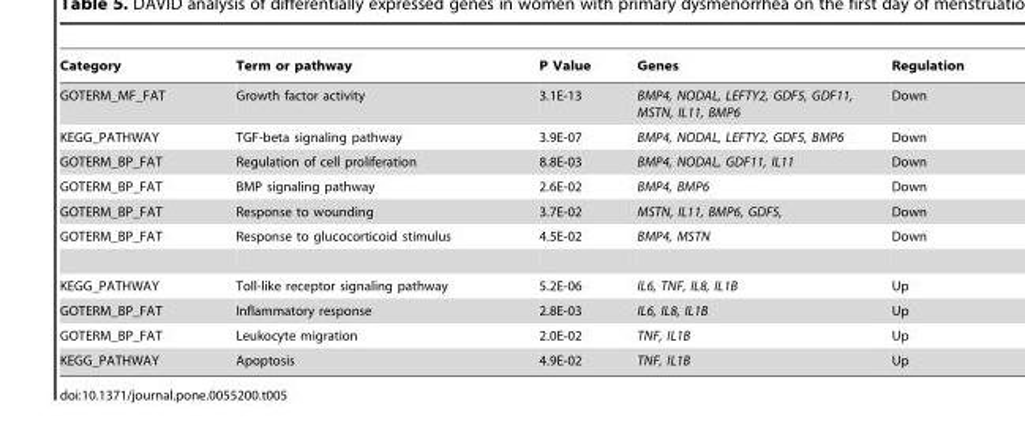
<table><thead><tr><td>Category</td><td>Term or pathway</td><td>P Value</td><td>Genes</td><td>Regulation</td></tr></thead><tbody><tr><td>GOTERM_MF_FAT</td><td>Growth factor activity</td><td>3.1E-13</td><td>BMP4, NODAL, LEFTY2, GDF5, GDF11, MSTN, IL11, BMP6</td><td>Down</td></tr><tr><td>KEGG_PATHWAY</td><td>TGF-beta signaling pathway</td><td>3.9E-07</td><td>BMP4, NODAL, LEFTY2, GDF5, BMP6</td><td>Down</td></tr><tr><td>GOTERM_BP_FAT</td><td>Regulation of cell proliferation</td><td>8.8E-03</td><td>BMP4, NODAL, GDF11, IL11</td><td>Down</td></tr><tr><td>GOTERM_BP_FAT</td><td>BMP signaling pathway</td><td>2.6E-02</td><td>BMP4, BMP6</td><td>Down</td></tr><tr><td>GOTERM_BP_FAT</td><td>Response to wounding</td><td>3.7E-02</td><td>MSTN, IL11, BMP6, GDF5,</td><td>Down</td></tr><tr><td>GOTERM_BP_FAT</td><td>Response to glucocorticoid stimulus</td><td>4.5E-02</td><td>BMP4, MSTN</td><td>Down</td></tr><tr><td>KEGG_PATHWAY</td><td>Toll-like receptor signaling pathway</td><td>5.2E-06</td><td>IL6, TNF, IL8, IL1B</td><td>Up</td></tr><tr><td>GOTERM_BP_FAT</td><td>Inflammatory response</td><td>2.8E-03</td><td>IL6, IL8, IL1B</td><td>Up</td></tr><tr><td>GOTERM_BP_FAT</td><td>Leukocyte migration</td><td>2.0E-02</td><td>TNF, IL1B</td><td>Up</td></tr><tr><td>KEGG_PATHWAY</td><td>Apoptosis</td><td>4.9E-02</td><td>TNF, IL1B</td><td>Up</td></tr></tbody></table>